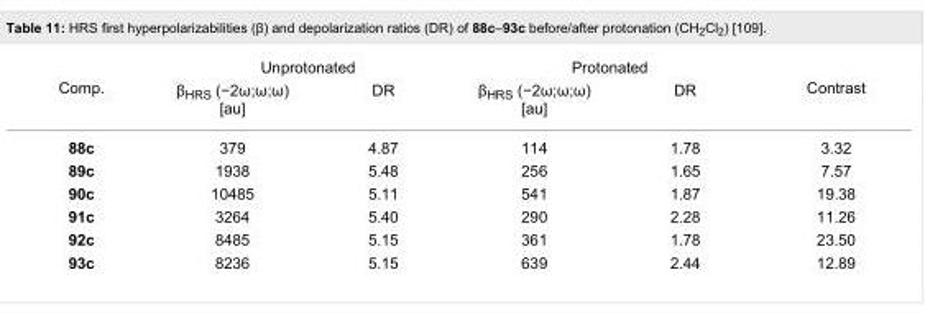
<table><tbody><tr><td rowspan="2">Comp.</td><td colspan="2">Unprotonated</td><td colspan="2">Protonated</td><td rowspan="2">Contrast</td></tr><tr><td>β<sub>HRS</sub> (−2ω;ω;ω) [au]</td><td>DR</td><td>β<sub>HRS</sub> (−2ω;ω;ω) [au]</td><td>DR</td></tr><tr><td>88c</td><td>379</td><td>4.87</td><td>114</td><td>1.78</td><td>3.32</td></tr><tr><td>89c</td><td>1938</td><td>5.48</td><td>256</td><td>1.65</td><td>7.57</td></tr><tr><td>90c</td><td>10485</td><td>5.11</td><td>541</td><td>1.87</td><td>19.38</td></tr><tr><td>91c</td><td>3264</td><td>5.40</td><td>290</td><td>2.28</td><td>11.26</td></tr><tr><td>92c</td><td>8485</td><td>5.15</td><td>361</td><td>1.78</td><td>23.50</td></tr><tr><td>93c</td><td>8236</td><td>5.15</td><td>639</td><td>2.44</td><td>12.89</td></tr></tbody></table>